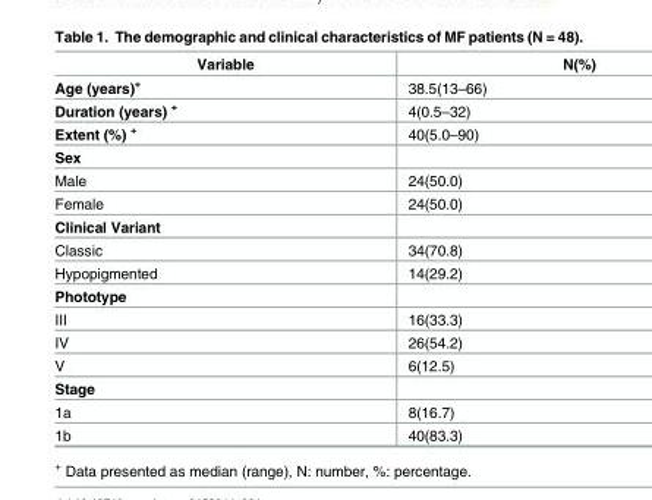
<table><thead><tr><td>Variable</td><td>N(%)</td></tr></thead><tbody><tr><td>Age (years)<sup>+</sup></td><td>38.5(13–66)</td></tr><tr><td>Duration (years) <sup>+</sup></td><td>4(0.5–32)</td></tr><tr><td>Extent (%) <sup>+</sup></td><td>40(5.0–90)</td></tr><tr><td colspan="2">Sex</td></tr><tr><td>Male</td><td>24(50.0)</td></tr><tr><td>Female</td><td>24(50.0)</td></tr><tr><td colspan="2">Clinical Variant</td></tr><tr><td>Classic</td><td>34(70.8)</td></tr><tr><td>Hypopigmented</td><td>14(29.2)</td></tr><tr><td colspan="2">Phototype</td></tr><tr><td>III</td><td>16(33.3)</td></tr><tr><td>IV</td><td>26(54.2)</td></tr><tr><td>V</td><td>6(12.5)</td></tr><tr><td colspan="2">Stage</td></tr><tr><td>1a</td><td>8(16.7)</td></tr><tr><td>1b</td><td>40(83.3)</td></tr></tbody></table>